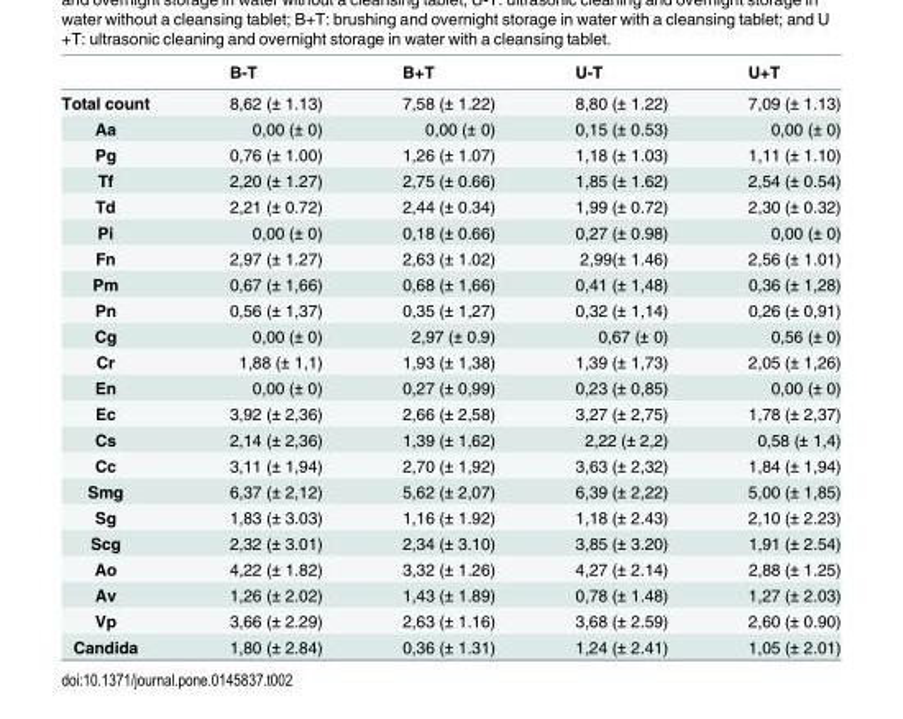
<table><thead><tr><td></td><td>B-T</td><td>B+T</td><td>U-T</td><td>U+T</td></tr></thead><tbody><tr><td>Total count</td><td>8,62 (± 1.13)</td><td>7,58 (± 1.22)</td><td>8,80 (± 1.22)</td><td>7,09 (± 1.13)</td></tr><tr><td>Aa</td><td>0,00 (± 0)</td><td>0,00 (± 0)</td><td>0,15 (± 0.53)</td><td>0,00 (± 0)</td></tr><tr><td>Pg</td><td>0,76 (± 1.00)</td><td>1,26 (± 1.07)</td><td>1,18 (± 1.03)</td><td>1,11 (± 1.10)</td></tr><tr><td>Tf</td><td>2,20 (± 1.27)</td><td>2,75 (± 0.66)</td><td>1,85 (± 1.62)</td><td>2,54 (± 0.54)</td></tr><tr><td>Td</td><td>2,21 (± 0.72)</td><td>2,44 (± 0.34)</td><td>1,99 (± 0.72)</td><td>2,30 (± 0.32)</td></tr><tr><td>Pi</td><td>0,00 (± 0)</td><td>0,18 (± 0.66)</td><td>0,27 (± 0.98)</td><td>0,00 (± 0)</td></tr><tr><td>Fn</td><td>2,97 (± 1.27)</td><td>2,63 (± 1.02)</td><td>2,99(± 1.46)</td><td>2,56 (± 1.01)</td></tr><tr><td>Pm</td><td>0,67 (± 1,66)</td><td>0,68 (± 1,66)</td><td>0,41 (± 1,48)</td><td>0,36 (± 1,28)</td></tr><tr><td>Pn</td><td>0,56 (± 1,37)</td><td>0,35 (± 1,27)</td><td>0,32 (± 1,14)</td><td>0,26 (± 0,91)</td></tr><tr><td>Cg</td><td>0,00 (± 0)</td><td>2,97 (± 0.9)</td><td>0,67 (± 0)</td><td>0,56 (± 0)</td></tr><tr><td>Cr</td><td>1,88 (± 1,1)</td><td>1,93 (± 1,38)</td><td>1,39 (± 1,73)</td><td>2,05 (± 1,26)</td></tr><tr><td>En</td><td>0,00 (± 0)</td><td>0,27 (± 0,99)</td><td>0,23 (± 0,85)</td><td>0,00 (± 0)</td></tr><tr><td>Ec</td><td>3,92 (± 2,36)</td><td>2,66 (± 2,58)</td><td>3,27 (± 2,75)</td><td>1,78 (± 2,37)</td></tr><tr><td>Cs</td><td>2,14 (± 2,36)</td><td>1,39 (± 1,62)</td><td>2,22 (± 2,2)</td><td>0,58 (± 1,4)</td></tr><tr><td>Cc</td><td>3,11 (± 1,94)</td><td>2,70 (± 1,92)</td><td>3,63 (± 2,32)</td><td>1,84 (± 1,94)</td></tr><tr><td>Smg</td><td>6,37 (± 2,12)</td><td>5,62 (± 2,07)</td><td>6,39 (± 2,22)</td><td>5,00 (± 1,85)</td></tr><tr><td>Sg</td><td>1,83 (± 3.03)</td><td>1,16 (± 1.92)</td><td>1,18 (± 2.43)</td><td>2,10 (± 2.23)</td></tr><tr><td>Scg</td><td>2,32 (± 3.01)</td><td>2,34 (± 3.10)</td><td>3,85 (± 3.20)</td><td>1,91 (± 2.54)</td></tr><tr><td>Ao</td><td>4,22 (± 1.82)</td><td>3,32 (± 1.26)</td><td>4,27 (± 2.14)</td><td>2,88 (± 1.25)</td></tr><tr><td>Av</td><td>1,26 (± 2.02)</td><td>1,43 (± 1.89)</td><td>0,78 (± 1.48)</td><td>1,27 (± 2.03)</td></tr><tr><td>Vp</td><td>3,66 (± 2.29)</td><td>2,63 (± 1.16)</td><td>3,68 (± 2.59)</td><td>2,60 (± 0.90)</td></tr><tr><td>Candida</td><td>1,80 (± 2.84)</td><td>0,36 (± 1.31)</td><td>1,24 (± 2.41)</td><td>1,05 (± 2.01)</td></tr></tbody></table>